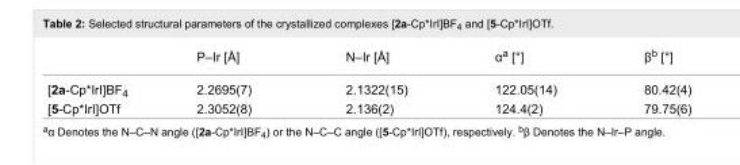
<table><thead><tr><td></td><td>P–Ir [Å]</td><td>N–Ir [Å]</td><td>α<sup>a</sup> [°]</td><td>β<sup>b</sup> [°]</td></tr></thead><tbody><tr><td>[2a-Cp*IrI]BF<sub>4</sub></td><td>2.2695(7)</td><td>2.1322(15)</td><td>122.05(14)</td><td>80.42(4)</td></tr><tr><td>[5-Cp*IrI]OTf</td><td>2.3052(8)</td><td>2.136(2)</td><td>124.4(2)</td><td>79.75(6)</td></tr></tbody></table>